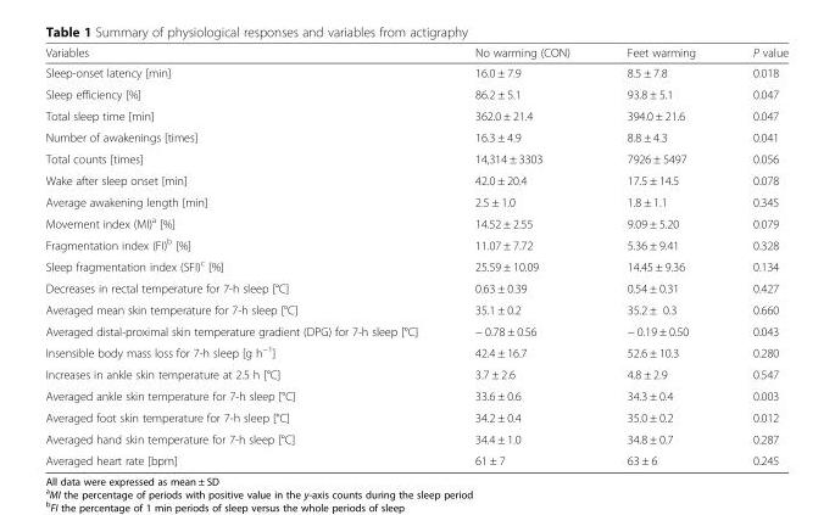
<table><thead><tr><td>Variables</td><td>No warming (CON)</td><td>Feet warming</td><td>P value</td></tr></thead><tbody><tr><td>Sleep-onset latency [min]</td><td>16.0 ± 7.9</td><td>8.5 ± 7.8</td><td>0.018</td></tr><tr><td>Sleep efficiency [%]</td><td>86.2 ± 5.1</td><td>93.8 ± 5.1</td><td>0.047</td></tr><tr><td>Total sleep time [min]</td><td>362.0 ± 21.4</td><td>394.0 ± 21.6</td><td>0.047</td></tr><tr><td>Number of awakenings [times]</td><td>16.3 ± 4.9</td><td>8.8 ± 4.3</td><td>0.041</td></tr><tr><td>Total counts [times]</td><td>14,314 ± 3303</td><td>7926 ± 5497</td><td>0.056</td></tr><tr><td>Wake after sleep onset [min]</td><td>42.0 ± 20.4</td><td>17.5 ± 14.5</td><td>0.078</td></tr><tr><td>Average awakening length [min]</td><td>2.5 ± 1.0</td><td>1.8 ± 1.1</td><td>0.345</td></tr><tr><td>Movement index (MI)<sup>a</sup> [%]</td><td>14.52 ± 2.55</td><td>9.09 ± 5.20</td><td>0.079</td></tr><tr><td>Fragmentation index (FI)<sup>b</sup> [%]</td><td>11.07 ± 7.72</td><td>5.36 ± 9.41</td><td>0.328</td></tr><tr><td>Sleep fragmentation index (SFI)<sup>c</sup> [%]</td><td>25.59 ± 10.09</td><td>14.45 ± 9.36</td><td>0.134</td></tr><tr><td>Decreases in rectal temperature for 7-h sleep [°C]</td><td>0.63 ± 0.39</td><td>0.54 ± 0.31</td><td>0.427</td></tr><tr><td>Averaged mean skin temperature for 7-h sleep [°C]</td><td>35.1 ± 0.2</td><td>35.2 ± 0.3</td><td>0.660</td></tr><tr><td>Averaged distal-proximal skin temperature gradient (DPG) for 7-h sleep [°C]</td><td>− 0.78 ± 0.56</td><td>− 0.19 ± 0.50</td><td>0.043</td></tr><tr><td>Insensible body mass loss for 7-h sleep [g h<sup>−1</sup>]</td><td>42.4 ± 16.7</td><td>52.6 ± 10.3</td><td>0.280</td></tr><tr><td>Increases in ankle skin temperature at 2.5 h [°C]</td><td>3.7 ± 2.6</td><td>4.8 ± 2.9</td><td>0.547</td></tr><tr><td>Averaged ankle skin temperature for 7-h sleep [°C]</td><td>33.6 ± 0.6</td><td>34.3 ± 0.4</td><td>0.003</td></tr><tr><td>Averaged foot skin temperature for 7-h sleep [°C]</td><td>34.2 ± 0.4</td><td>35.0 ± 0.2</td><td>0.012</td></tr><tr><td>Averaged hand skin temperature for 7-h sleep [°C]</td><td>34.4 ± 1.0</td><td>34.8 ± 0.7</td><td>0.287</td></tr><tr><td>Averaged heart rate [bpm]</td><td>61 ± 7</td><td>63 ± 6</td><td>0.245</td></tr></tbody></table>